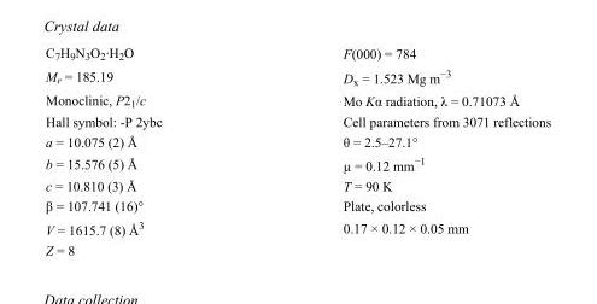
<table><tbody><tr><td>C<sub>7</sub>H<sub>9</sub>N<sub>3</sub>O<sub>2</sub>·H<sub>2</sub>O</td><td>F(000) = 784</td></tr><tr><td>M<sub>r</sub> = 185.19</td><td>D<sub>x</sub> = 1.523 Mg m<sup>−3</sup></td></tr><tr><td>Monoclinic, P2<sub>1</sub>/c</td><td>Mo Kα radiation, λ = 0.71073 Å</td></tr><tr><td>Hall symbol: -P 2ybc</td><td>Cell parameters from 3071 reflections</td></tr><tr><td>a = 10.075 (2) Å</td><td>θ = 2.5–27.1°</td></tr><tr><td>b = 15.576 (5) Å</td><td>µ = 0.12 mm<sup>−1</sup></td></tr><tr><td>c = 10.810 (3) Å</td><td>T = 90 K</td></tr><tr><td>β = 107.741 (16)°</td><td>Plate, colorless</td></tr><tr><td>V = 1615.7 (8) Å<sup>3</sup></td><td>0.17 × 0.12 × 0.05 mm</td></tr><tr><td>Z = 8</td><td></td></tr></tbody></table>